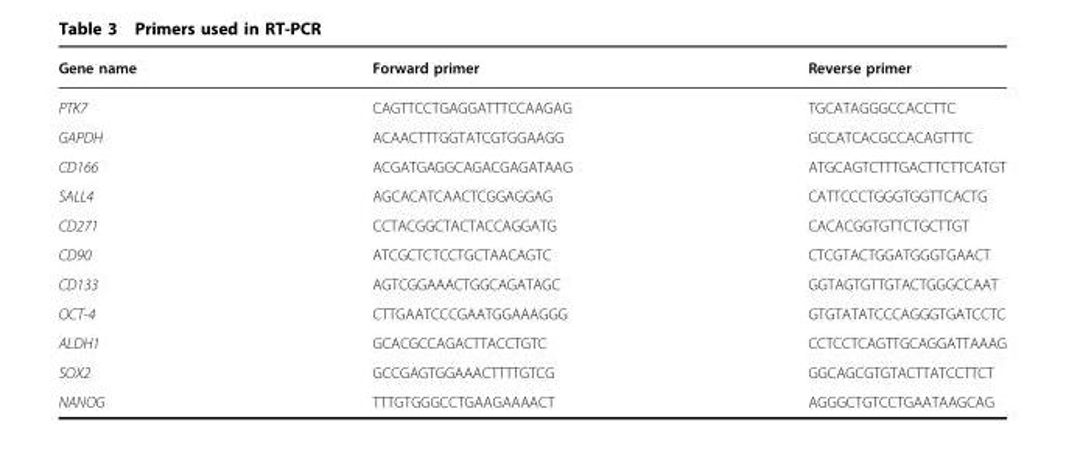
<table><thead><tr><td>Gene name</td><td>Forward primer</td><td>Reverse primer</td></tr></thead><tbody><tr><td>PTK7</td><td>CAGTTCCTGAGGATTTCCAAGAG</td><td>TGCATAGGGCCACCTTC</td></tr><tr><td>GAPDH</td><td>ACAACTTTGGTATCGTGGAAGG</td><td>GCCATCACGCCACAGTTTC</td></tr><tr><td>CD166</td><td>ACGATGAGGCAGACGAGATAAG</td><td>ATGCAGTCTTTGACTTCTTCATGT</td></tr><tr><td>SALL4</td><td>AGCACATCAACTCGGAGGAG</td><td>CATTCCCTGGGTGGTTCACTG</td></tr><tr><td>CD271</td><td>CCTACGGCTACTACCAGGATG</td><td>CACACGGTGTTCTGCTTGT</td></tr><tr><td>CD90</td><td>ATCGCTCTCCTGCTAACAGTC</td><td>CTCGTACTGGATGGGTGAACT</td></tr><tr><td>CD133</td><td>AGTCGGAAACTGGCAGATAGC</td><td>GGTAGTGTTGTACTGGGCCAAT</td></tr><tr><td>OCT-4</td><td>CTTGAATCCCGAATGGAAAGGG</td><td>GTGTATATCCCAGGGTGATCCTC</td></tr><tr><td>ALDH1</td><td>GCACGCCAGACTTACCTGTC</td><td>CCTCCTCAGTTGCAGGATTAAAG</td></tr><tr><td>SOX2</td><td>GCCGAGTGGAAACTTTTGTCG</td><td>GGCAGCGTGTACTTATCCTTCT</td></tr><tr><td>NANOG</td><td>TTTGTGGGCCTGAAGAAAACT</td><td>AGGGCTGTCCTGAATAAGCAG</td></tr></tbody></table>